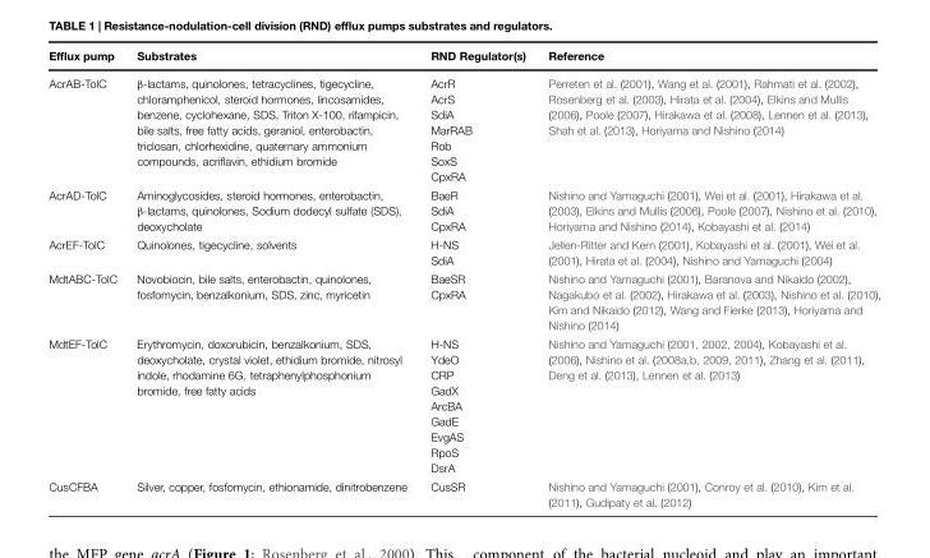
<table><thead><tr><td>Efflux pump</td><td>Substrates</td><td>RND Regulator(s)</td><td>Reference</td></tr></thead><tbody><tr><td>AcrAB-TolC</td><td>β-lactams, quinolones, tetracyclines, tigecycline, chloramphenicol, steroid hormones, lincosamides, benzene, cyclohexane, SDS, Triton X-100, rifampicin, bile salts, free fatty acids, geraniol, enterobactin, triclosan, chlorhexidine, quaternary ammonium compounds, acriflavin, ethidium bromide</td><td>AcrR AcrS SdiA MarRAB Rob SoxS CpxRA</td><td>Perreten et al. (2001), Wang et al. (2001), Rahmati et al. (2002), Rosenberg et al. (2003), Hirata et al. (2004), Elkins and Mullis (2006), Poole (2007), Hirakawa et al. (2008), Lennen et al. (2013), Shah et al. (2013), Horiyama and Nishino (2014)</td></tr><tr><td>AcrAD-TolC</td><td>Aminoglycosides, steroid hormones, enterobactin, β-lactams, quinolones, Sodium dodecyl sulfate (SDS), deoxycholate</td><td>BaeR SdiA CpxRA</td><td>Nishino and Yamaguchi (2001), Wei et al. (2001), Hirakawa et al. (2003), Elkins and Mullis (2006), Poole (2007), Nishino et al. (2010), Horiyama and Nishino (2014), Kobayashi et al. (2014)</td></tr><tr><td>AcrEF-TolC</td><td>Quinolones, tigecycline, solvents</td><td>H-NS SdiA</td><td>Jellen-Ritter and Kern (2001), Kobayashi et al. (2001), Wei et al. (2001), Hirata et al. (2004), Nishino and Yamaguchi (2004)</td></tr><tr><td>MdtABC-TolC</td><td>Novobiocin, bile salts, enterobactin, quinolones, fosfomycin, benzalkonium, SDS, zinc, myricetin</td><td>BaeSR CpxRA</td><td>Nishino and Yamaguchi (2001), Baranova and Nikaido (2002), Nagakubo et al. (2002), Hirakawa et al. (2003), Nishino et al. (2010), Kim and Nikaido (2012), Wang and Fierke (2013), Horiyama and Nishino (2014)</td></tr><tr><td>MdtEF-TolC</td><td>Erythromycin, doxorubicin, benzalkonium, SDS, deoxycholate, crystal violet, ethidium bromide, nitrosyl indole, rhodamine 6G, tetraphenylphosphonium bromide, free fatty acids</td><td>H-NS YdeO CRP GadX ArcBA GadE EvgAS RpoS DsrA</td><td>Nishino and Yamaguchi (2001, 2002, 2004), Kobayashi et al. (2006), Nishino et al. (2008a,b, 2009, 2011), Zhang et al. (2011), Deng et al. (2013), Lennen et al. (2013)</td></tr><tr><td>CusCFBA</td><td>Silver, copper, fosfomycin, ethionamide, dinitrobenzene</td><td>CusSR</td><td>Nishino and Yamaguchi (2001), Conroy et al. (2010), Kim et al. (2011), Gudipaty et al. (2012)</td></tr></tbody></table>